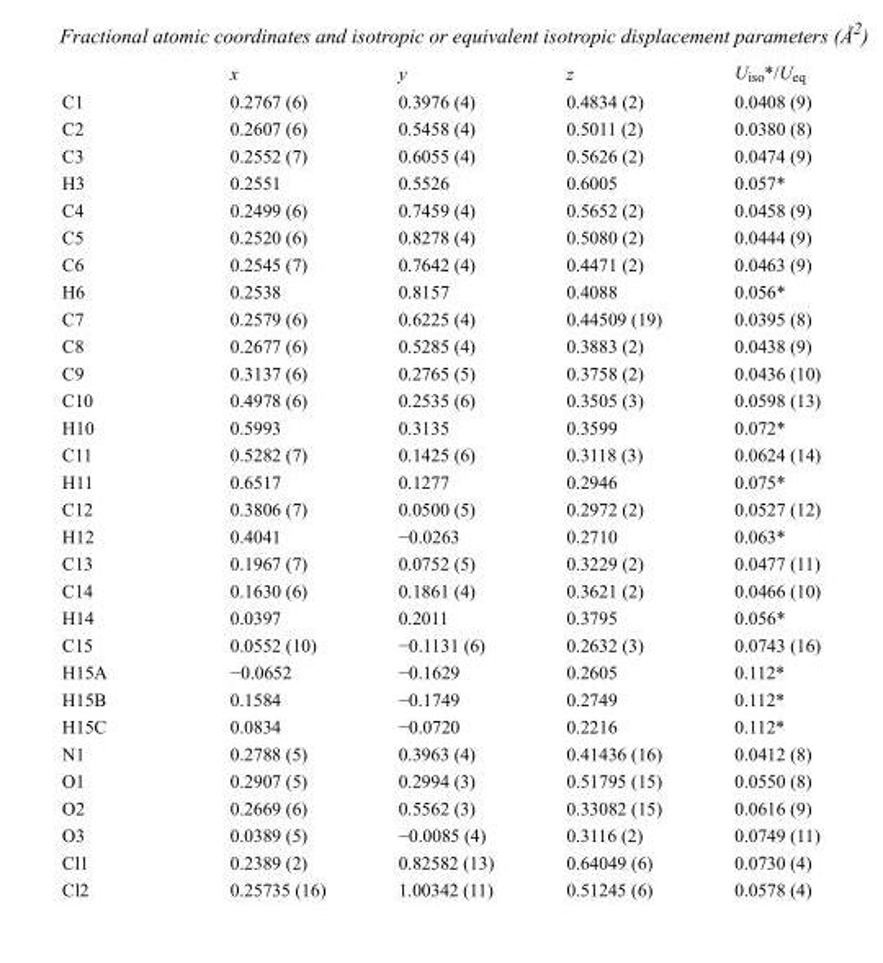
<table><thead><tr><td></td><td>x</td><td>y</td><td>z</td><td>U<sub>iso</sub>*/U<sub>eq</sub></td></tr></thead><tbody><tr><td>C1</td><td>0.2767 (6)</td><td>0.3976 (4)</td><td>0.4834 (2)</td><td>0.0408 (9)</td></tr><tr><td>C2</td><td>0.2607 (6)</td><td>0.5458 (4)</td><td>0.5011 (2)</td><td>0.0380 (8)</td></tr><tr><td>C3</td><td>0.2552 (7)</td><td>0.6055 (4)</td><td>0.5626 (2)</td><td>0.0474 (9)</td></tr><tr><td>H3</td><td>0.2551</td><td>0.5526</td><td>0.6005</td><td>0.057*</td></tr><tr><td>C4</td><td>0.2499 (6)</td><td>0.7459 (4)</td><td>0.5652 (2)</td><td>0.0458 (9)</td></tr><tr><td>C5</td><td>0.2520 (6)</td><td>0.8278 (4)</td><td>0.5080 (2)</td><td>0.0444 (9)</td></tr><tr><td>C6</td><td>0.2545 (7)</td><td>0.7642 (4)</td><td>0.4471 (2)</td><td>0.0463 (9)</td></tr><tr><td>H6</td><td>0.2538</td><td>0.8157</td><td>0.4088</td><td>0.056*</td></tr><tr><td>C7</td><td>0.2579 (6)</td><td>0.6225 (4)</td><td>0.44509 (19)</td><td>0.0395 (8)</td></tr><tr><td>C8</td><td>0.2677 (6)</td><td>0.5285 (4)</td><td>0.3883 (2)</td><td>0.0438 (9)</td></tr><tr><td>C9</td><td>0.3137 (6)</td><td>0.2765 (5)</td><td>0.3758 (2)</td><td>0.0436 (10)</td></tr><tr><td>C10</td><td>0.4978 (6)</td><td>0.2535 (6)</td><td>0.3505 (3)</td><td>0.0598 (13)</td></tr><tr><td>H10</td><td>0.5993</td><td>0.3135</td><td>0.3599</td><td>0.072*</td></tr><tr><td>C11</td><td>0.5282 (7)</td><td>0.1425 (6)</td><td>0.3118 (3)</td><td>0.0624 (14)</td></tr><tr><td>H11</td><td>0.6517</td><td>0.1277</td><td>0.2946</td><td>0.075*</td></tr><tr><td>C12</td><td>0.3806 (7)</td><td>0.0500 (5)</td><td>0.2972 (2)</td><td>0.0527 (12)</td></tr><tr><td>H12</td><td>0.4041</td><td>−0.0263</td><td>0.2710</td><td>0.063*</td></tr><tr><td>C13</td><td>0.1967 (7)</td><td>0.0752 (5)</td><td>0.3229 (2)</td><td>0.0477 (11)</td></tr><tr><td>C14</td><td>0.1630 (6)</td><td>0.1861 (4)</td><td>0.3621 (2)</td><td>0.0466 (10)</td></tr><tr><td>H14</td><td>0.0397</td><td>0.2011</td><td>0.3795</td><td>0.056*</td></tr><tr><td>C15</td><td>0.0552 (10)</td><td>−0.1131 (6)</td><td>0.2632 (3)</td><td>0.0743 (16)</td></tr><tr><td>H15A</td><td>−0.0652</td><td>−0.1629</td><td>0.2605</td><td>0.112*</td></tr><tr><td>H15B</td><td>0.1584</td><td>−0.1749</td><td>0.2749</td><td>0.112*</td></tr><tr><td>H15C</td><td>0.0834</td><td>−0.0720</td><td>0.2216</td><td>0.112*</td></tr><tr><td>N1</td><td>0.2788 (5)</td><td>0.3963 (4)</td><td>0.41436 (16)</td><td>0.0412 (8)</td></tr><tr><td>O1</td><td>0.2907 (5)</td><td>0.2994 (3)</td><td>0.51795 (15)</td><td>0.0550 (8)</td></tr><tr><td>O2</td><td>0.2669 (6)</td><td>0.5562 (3)</td><td>0.33082 (15)</td><td>0.0616 (9)</td></tr><tr><td>O3</td><td>0.0389 (5)</td><td>−0.0085 (4)</td><td>0.3116 (2)</td><td>0.0749 (11)</td></tr><tr><td>Cl1</td><td>0.2389 (2)</td><td>0.82582 (13)</td><td>0.64049 (6)</td><td>0.0730 (4)</td></tr><tr><td>Cl2</td><td>0.25735 (16)</td><td>1.00342 (11)</td><td>0.51245 (6)</td><td>0.0578 (4)</td></tr></tbody></table>